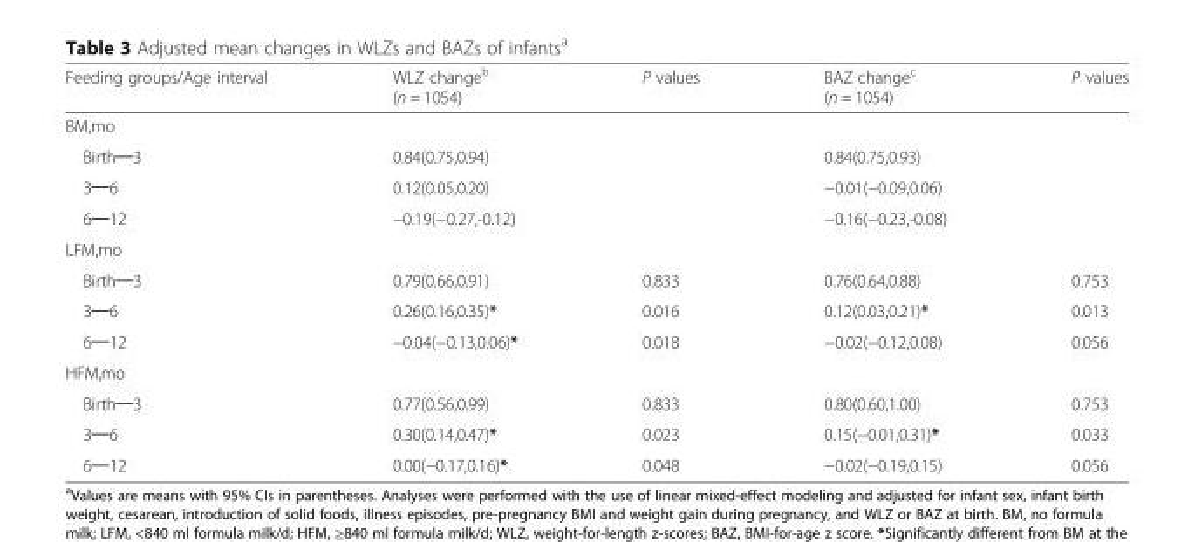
<table><thead><tr><td>Feeding groups/Age interval</td><td>WLZ change<sup>b</sup> (n = 1054)</td><td>P values</td><td>BAZ change<sup>c</sup> (n = 1054)</td><td>P values</td></tr></thead><tbody><tr><td colspan="5">BM,mo</td></tr><tr><td>Birth─3</td><td>0.84(0.75,0.94)</td><td></td><td>0.84(0.75,0.93)</td><td></td></tr><tr><td>3─6</td><td>0.12(0.05,0.20)</td><td></td><td>−0.01(−0.09,0.06)</td><td></td></tr><tr><td>6─12</td><td>−0.19(−0.27,-0.12)</td><td></td><td>−0.16(−0.23,-0.08)</td><td></td></tr><tr><td colspan="5">LFM,mo</td></tr><tr><td>Birth─3</td><td>0.79(0.66,0.91)</td><td>0.833</td><td>0.76(0.64,0.88)</td><td>0.753</td></tr><tr><td>3─6</td><td>0.26(0.16,0.35)*</td><td>0.016</td><td>0.12(0.03,0.21)*</td><td>0.013</td></tr><tr><td>6─12</td><td>−0.04(−0.13,0.06)*</td><td>0.018</td><td>−0.02(−0.12,0.08)</td><td>0.056</td></tr><tr><td colspan="5">HFM,mo</td></tr><tr><td>Birth─3</td><td>0.77(0.56,0.99)</td><td>0.833</td><td>0.80(0.60,1.00)</td><td>0.753</td></tr><tr><td>3─6</td><td>0.30(0.14,0.47)*</td><td>0.023</td><td>0.15(−0.01,0.31)*</td><td>0.033</td></tr><tr><td>6─12</td><td>0.00(−0.17,0.16)*</td><td>0.048</td><td>−0.02(−0.19,0.15)</td><td>0.056</td></tr></tbody></table>